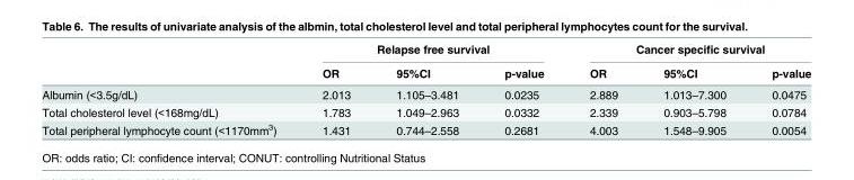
<table><thead><tr><td rowspan="2"></td><td colspan="3">Relapse free survival</td><td colspan="3">Cancer specific survival</td></tr><tr><td>OR</td><td>95%CI</td><td>p-value</td><td>OR</td><td>95%CI</td><td>p-value</td></tr></thead><tbody><tr><td>Albumin (&lt;3.5g/dL)</td><td>2.013</td><td>1.105–3.481</td><td>0.0235</td><td>2.889</td><td>1.013–7.300</td><td>0.0475</td></tr><tr><td>Total cholesterol level (&lt;168mg/dL)</td><td>1.783</td><td>1.049–2.963</td><td>0.0332</td><td>2.339</td><td>0.903–5.798</td><td>0.0784</td></tr><tr><td>Total peripheral lymphocyte count (&lt;1170mm<sup>3</sup>)</td><td>1.431</td><td>0.744–2.558</td><td>0.2681</td><td>4.003</td><td>1.548–9.905</td><td>0.0054</td></tr></tbody></table>